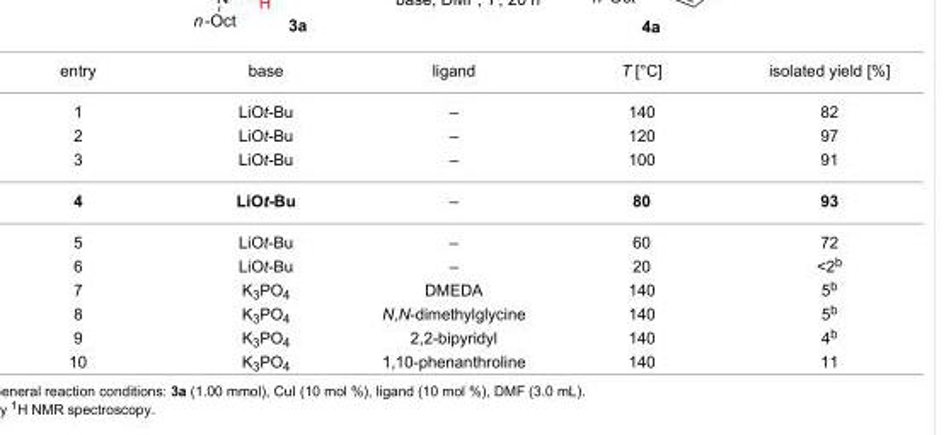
<table><tbody><tr><td>entry</td><td>base</td><td>ligand</td><td>T [°C]</td><td>isolated yield [%]</td></tr><tr><td>1</td><td>LiOt-Bu</td><td>–</td><td>140</td><td>82</td></tr><tr><td>2</td><td>LiOt-Bu</td><td>–</td><td>120</td><td>97</td></tr><tr><td>3</td><td>LiOt-Bu</td><td>–</td><td>100</td><td>91</td></tr><tr><td>4</td><td>LiOt-Bu</td><td>–</td><td>80</td><td>93</td></tr><tr><td>5</td><td>LiOt-Bu</td><td>–</td><td>60</td><td>72</td></tr><tr><td>6</td><td>LiOt-Bu</td><td>–</td><td>20</td><td>&lt;2<sup>b</sup></td></tr><tr><td>7</td><td>K<sub>3</sub>PO<sub>4</sub></td><td>DMEDA</td><td>140</td><td>5<sup>b</sup></td></tr><tr><td>8</td><td>K<sub>3</sub>PO<sub>4</sub></td><td>N,N-dimethylglycine</td><td>140</td><td>5<sup>b</sup></td></tr><tr><td>9</td><td>K<sub>3</sub>PO<sub>4</sub></td><td>2,2-bipyridyl</td><td>140</td><td>4<sup>b</sup></td></tr><tr><td>10</td><td>K<sub>3</sub>PO<sub>4</sub></td><td>1,10-phenanthroline</td><td>140</td><td>11</td></tr></tbody></table>